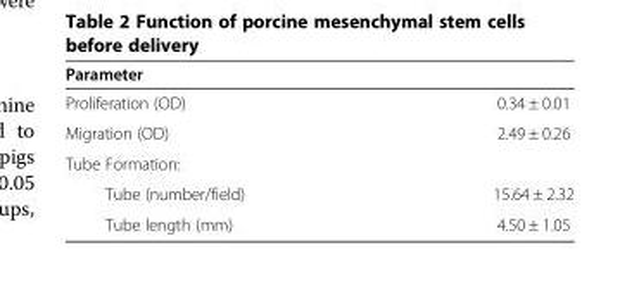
<table><thead><tr><td>Parameter</td><td></td></tr></thead><tbody><tr><td>Proliferation (OD)</td><td>0.34 ± 0.01</td></tr><tr><td>Migration (OD)</td><td>2.49 ± 0.26</td></tr><tr><td colspan="2">Tube Formation:</td></tr><tr><td>Tube (number/field)</td><td>15.64 ± 2.32</td></tr><tr><td>Tube length (mm)</td><td>4.50 ± 1.05</td></tr></tbody></table>